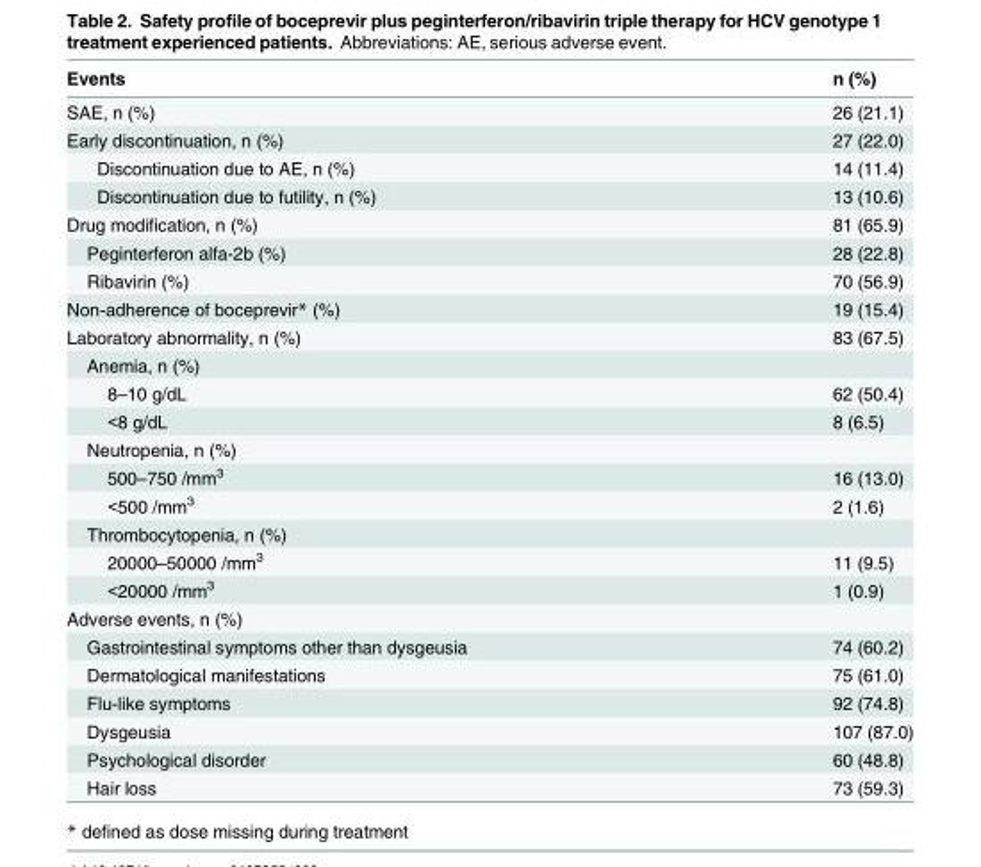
<table><thead><tr><td>Events</td><td>n (%)</td></tr></thead><tbody><tr><td>SAE, n (%)</td><td>26 (21.1)</td></tr><tr><td>Early discontinuation, n (%)</td><td>27 (22.0)</td></tr><tr><td>Discontinuation due to AE, n (%)</td><td>14 (11.4)</td></tr><tr><td>Discontinuation due to futility, n (%)</td><td>13 (10.6)</td></tr><tr><td>Drug modification, n (%)</td><td>81 (65.9)</td></tr><tr><td>Peginterferon alfa-2b (%)</td><td>28 (22.8)</td></tr><tr><td>Ribavirin (%)</td><td>70 (56.9)</td></tr><tr><td>Non-adherence of boceprevir* (%)</td><td>19 (15.4)</td></tr><tr><td>Laboratory abnormality, n (%)</td><td>83 (67.5)</td></tr><tr><td colspan="2">Anemia, n (%)</td></tr><tr><td>8–10 g/dL</td><td>62 (50.4)</td></tr><tr><td>&lt;8 g/dL</td><td>8 (6.5)</td></tr><tr><td colspan="2">Neutropenia, n (%)</td></tr><tr><td>500–750 /mm<sup>3</sup></td><td>16 (13.0)</td></tr><tr><td>&lt;500 /mm<sup>3</sup></td><td>2 (1.6)</td></tr><tr><td colspan="2">Thrombocytopenia, n (%)</td></tr><tr><td>20000–50000 /mm<sup>3</sup></td><td>11 (9.5)</td></tr><tr><td>&lt;20000 /mm<sup>3</sup></td><td>1 (0.9)</td></tr><tr><td colspan="2">Adverse events, n (%)</td></tr><tr><td>Gastrointestinal symptoms other than dysgeusia</td><td>74 (60.2)</td></tr><tr><td>Dermatological manifestations</td><td>75 (61.0)</td></tr><tr><td>Flu-like symptoms</td><td>92 (74.8)</td></tr><tr><td>Dysgeusia</td><td>107 (87.0)</td></tr><tr><td>Psychological disorder</td><td>60 (48.8)</td></tr><tr><td>Hair loss</td><td>73 (59.3)</td></tr></tbody></table>